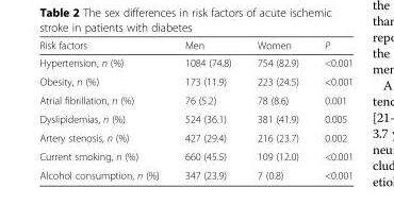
<table><thead><tr><td>Risk factors</td><td>Men</td><td>Women</td><td>P</td></tr></thead><tbody><tr><td>Hypertension, n (%)</td><td>1084 (74.8)</td><td>754 (82.9)</td><td>&lt;0.001</td></tr><tr><td>Obesity, n (%)</td><td>173 (11.9)</td><td>223 (24.5)</td><td>&lt;0.001</td></tr><tr><td>Atrial fibrillation, n (%)</td><td>76 (5.2)</td><td>78 (8.6)</td><td>0.001</td></tr><tr><td>Dyslipidemias, n (%)</td><td>524 (36.1)</td><td>381 (41.9)</td><td>0.005</td></tr><tr><td>Artery stenosis, n (%)</td><td>427 (29.4)</td><td>216 (23.7)</td><td>0.002</td></tr><tr><td>Current smoking, n (%)</td><td>660 (45.5)</td><td>109 (12.0)</td><td>&lt;0.001</td></tr><tr><td>Alcohol consumption, n (%)</td><td>347 (23.9)</td><td>7 (0.8)</td><td>&lt;0.001</td></tr></tbody></table>